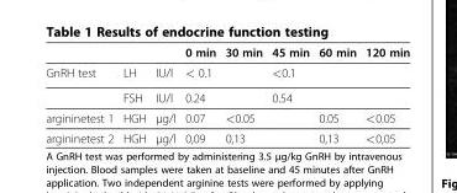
<table><thead><tr><td rowspan="2">GnRH test</td><td rowspan="2">LH</td><td rowspan="2">IU/l</td><td rowspan="2">0 min &lt; 0.1</td><td rowspan="2">30 min</td><td rowspan="2">45 min &lt;0.1</td><td rowspan="2">60 min</td><td rowspan="2">120 min</td></tr><tr></tr></thead><tbody><tr><td></td><td>FSH</td><td>IU/l</td><td>0.24</td><td></td><td>0.54</td><td></td><td></td></tr><tr><td>argininetest 1</td><td>HGH</td><td>μg/l</td><td>0.07</td><td>&lt;0.05</td><td></td><td>0.05</td><td>&lt;0.05</td></tr><tr><td>argininetest 2</td><td>HGH</td><td>μg/l</td><td>0,09</td><td>0,13</td><td></td><td>0,13</td><td>&lt;0,05</td></tr></tbody></table>